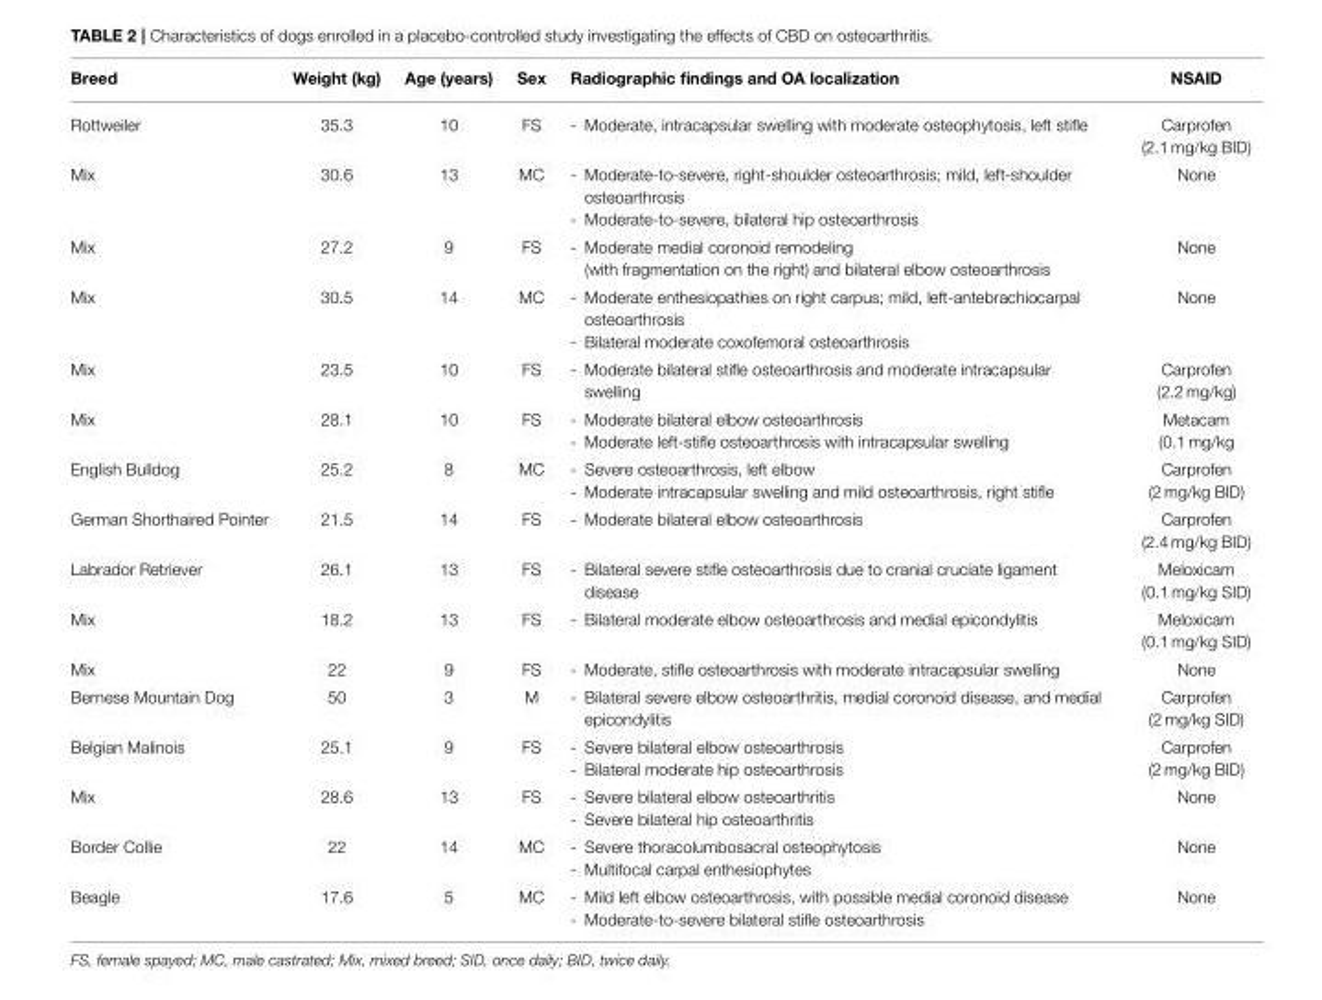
<table><thead><tr><td>Breed</td><td>Weight (kg)</td><td>Age (years)</td><td>Sex</td><td>Radiographic findings and OA localization</td><td>NSAID</td></tr></thead><tbody><tr><td>Rottweiler</td><td>35.3</td><td>10</td><td>FS</td><td>- Moderate, intracapsular swelling with moderate osteophytosis, left stifle</td><td>Carprofen (2.1 mg/kg BID)</td></tr><tr><td>Mix</td><td>30.6</td><td>13</td><td>MC</td><td>- Moderate-to-severe, right-shoulder osteoarthrosis; mild, left-shoulder osteoarthrosis - Moderate-to-severe, bilateral hip osteoarthrosis</td><td>None</td></tr><tr><td>Mix</td><td>27.2</td><td>9</td><td>FS</td><td>- Moderate medial coronoid remodeling (with fragmentation on the right) and bilateral elbow osteoarthrosis</td><td>None</td></tr><tr><td>Mix</td><td>30.5</td><td>14</td><td>MC</td><td>- Moderate enthesiopathies on right carpus; mild, left-antebrachiocarpal osteoarthrosis - Bilateral moderate coxofemoral osteoarthrosis</td><td>None</td></tr><tr><td>Mix</td><td>23.5</td><td>10</td><td>FS</td><td>- Moderate bilateral stifle osteoarthrosis and moderate intracapsular swelling</td><td>Carprofen (2.2 mg/kg)</td></tr><tr><td>Mix</td><td>28.1</td><td>10</td><td>FS</td><td>- Moderate bilateral elbow osteoarthrosis - Moderate left-stifle osteoarthrosis with intracapsular swelling</td><td>Metacam (0.1 mg/kg</td></tr><tr><td>English Bulldog</td><td>25.2</td><td>8</td><td>MC</td><td>- Severe osteoarthrosis, left elbow - Moderate intracapsular swelling and mild osteoarthrosis, right stifle</td><td>Carprofen (2 mg/kg BID)</td></tr><tr><td>German Shorthaired Pointer</td><td>21.5</td><td>14</td><td>FS</td><td>- Moderate bilateral elbow osteoarthrosis</td><td>Carprofen (2.4 mg/kg BID)</td></tr><tr><td>Labrador Retriever</td><td>26.1</td><td>13</td><td>FS</td><td>- Bilateral severe stifle osteoarthrosis due to cranial cruciate ligament disease</td><td>Meloxicam (0.1 mg/kg SID)</td></tr><tr><td>Mix</td><td>18.2</td><td>13</td><td>FS</td><td>- Bilateral moderate elbow osteoarthrosis and medial epicondylitis</td><td>Meloxicam (0.1 mg/kg SID)</td></tr><tr><td>Mix</td><td>22</td><td>9</td><td>FS</td><td>- Moderate, stifle osteoarthrosis with moderate intracapsular swelling</td><td>None</td></tr><tr><td>Bernese Mountain Dog</td><td>50</td><td>3</td><td>M</td><td>- Bilateral severe elbow osteoarthritis, medial coronoid disease, and medial epicondylitis</td><td>Carprofen (2 mg/kg SID)</td></tr><tr><td>Belgian Malinois</td><td>25.1</td><td>9</td><td>FS</td><td>- Severe bilateral elbow osteoarthrosis - Bilateral moderate hip osteoarthrosis</td><td>Carprofen (2 mg/kg BID)</td></tr><tr><td>Mix</td><td>28.6</td><td>13</td><td>FS</td><td>- Severe bilateral elbow osteoarthritis - Severe bilateral hip osteoarthritis</td><td>None</td></tr><tr><td>Border Collie</td><td>22</td><td>14</td><td>MC</td><td>- Severe thoracolumbosacral osteophytosis - Multifocal carpal enthesiophytes</td><td>None</td></tr><tr><td>Beagle</td><td>17.6</td><td>5</td><td>MC</td><td>- Mild left elbow osteoarthrosis, with possible medial coronoid disease - Moderate-to-severe bilateral stifle osteoarthrosis</td><td>None</td></tr></tbody></table>